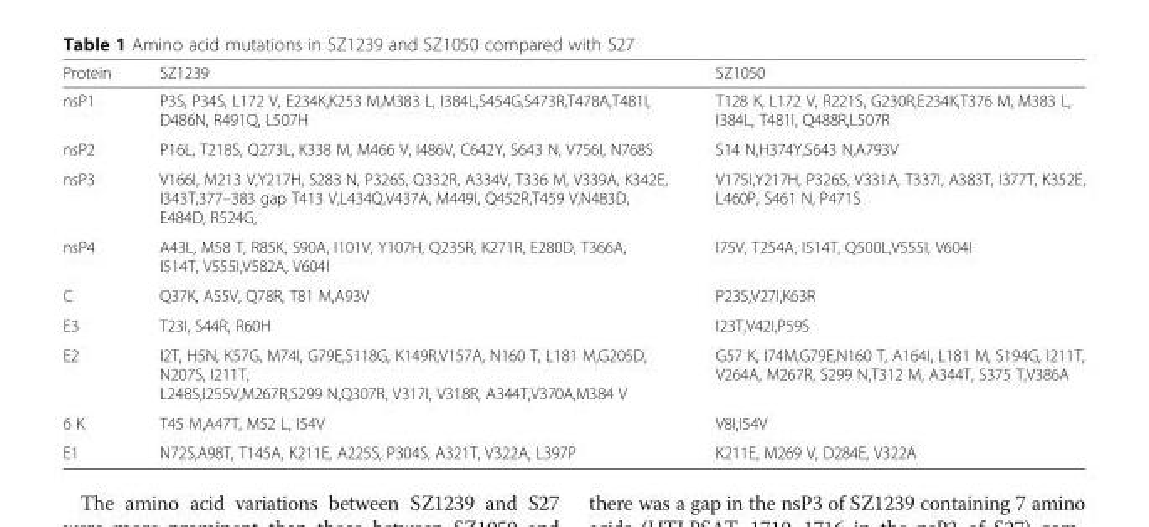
<table><thead><tr><td>Protein</td><td>SZ1239</td><td>SZ1050</td></tr></thead><tbody><tr><td>nsP1</td><td>P3S, P34S, L172 V, E234K,K253 M,M383 L, I384L,S454G,S473R,T478A,T481I, D486N, R491Q, L507H</td><td>T128 K, L172 V, R221S, G230R,E234K,T376 M, M383 L, I384L, T481I, Q488R,L507R</td></tr><tr><td>nsP2</td><td>P16L, T218S, Q273L, K338 M, M466 V, I486V, C642Y, S643 N, V756I, N768S</td><td>S14 N,H374Y,S643 N,A793V</td></tr><tr><td>nsP3</td><td>V166I, M213 V,Y217H, S283 N, P326S, Q332R, A334V, T336 M, V339A, K342E, I343T,377–383 gap T413 V,L434Q,V437A, M449I, Q452R,T459 V,N483D, E484D, R524G,</td><td>V175I,Y217H, P326S, V331A, T337I, A383T, I377T, K352E, L460P, S461 N, P471S</td></tr><tr><td>nsP4</td><td>A43L, M58 T, R85K, S90A, I101V, Y107H, Q235R, K271R, E280D, T366A, I514T, V555I,V582A, V604I</td><td>I75V, T254A, I514T, Q500L,V555I, V604I</td></tr><tr><td>C</td><td>Q37K, A55V, Q78R, T81 M,A93V</td><td>P23S,V27I,K63R</td></tr><tr><td>E3</td><td>T23I, S44R, R60H</td><td>I23T,V42I,P59S</td></tr><tr><td>E2</td><td>I2T, H5N, K57G, M74I, G79E,S118G, K149R,V157A, N160 T, L181 M,G205D, N207S, I211T, L248S,I255V,M267R,S299 N,Q307R, V317I, V318R, A344T,V370A,M384 V</td><td>G57 K, I74M,G79E,N160 T, A164I, L181 M, S194G, I211T, V264A, M267R, S299 N,T312 M, A344T, S375 T,V386A</td></tr><tr><td>6 K</td><td>T45 M,A47T, M52 L, I54V</td><td>V8I,I54V</td></tr><tr><td>E1</td><td>N72S,A98T, T145A, K211E, A225S, P304S, A321T, V322A, L397P</td><td>K211E, M269 V, D284E, V322A</td></tr></tbody></table>